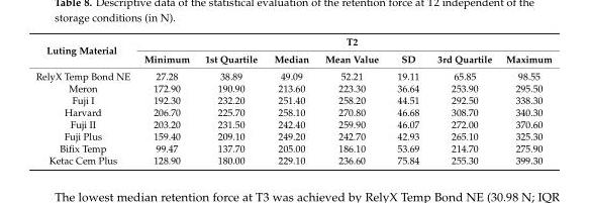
<table><thead><tr><td rowspan="2">Luting Material</td><td rowspan="2">Minimum</td><td rowspan="2">1st Quartile</td><td rowspan="2">Median</td><td rowspan="2">T2 Mean Value</td><td rowspan="2">SD</td><td rowspan="2">3rd Quartile</td><td rowspan="2">Maximum</td></tr><tr></tr></thead><tbody><tr><td>RelyX Temp Bond NE</td><td>27.28</td><td>38.89</td><td>49.09</td><td>52.21</td><td>19.11</td><td>65.85</td><td>98.55</td></tr><tr><td>Meron</td><td>172.90</td><td>190.90</td><td>213.60</td><td>223.30</td><td>36.64</td><td>253.90</td><td>295.50</td></tr><tr><td>Fuji I</td><td>192.30</td><td>232.20</td><td>251.40</td><td>258.20</td><td>44.51</td><td>292.50</td><td>338.30</td></tr><tr><td>Harvard</td><td>206.70</td><td>225.70</td><td>258.10</td><td>270.80</td><td>46.68</td><td>308.70</td><td>340.30</td></tr><tr><td>Fuji II</td><td>203.20</td><td>231.50</td><td>242.40</td><td>259.90</td><td>46.07</td><td>272.00</td><td>370.60</td></tr><tr><td>Fuji Plus</td><td>159.40</td><td>209.10</td><td>249.20</td><td>242.70</td><td>42.93</td><td>265.10</td><td>325.30</td></tr><tr><td>Bifix Temp</td><td>99.47</td><td>137.70</td><td>205.00</td><td>186.10</td><td>53.69</td><td>214.70</td><td>275.90</td></tr><tr><td>Ketac Cem Plus</td><td>128.90</td><td>180.00</td><td>229.10</td><td>236.60</td><td>75.84</td><td>255.30</td><td>399.30</td></tr></tbody></table>